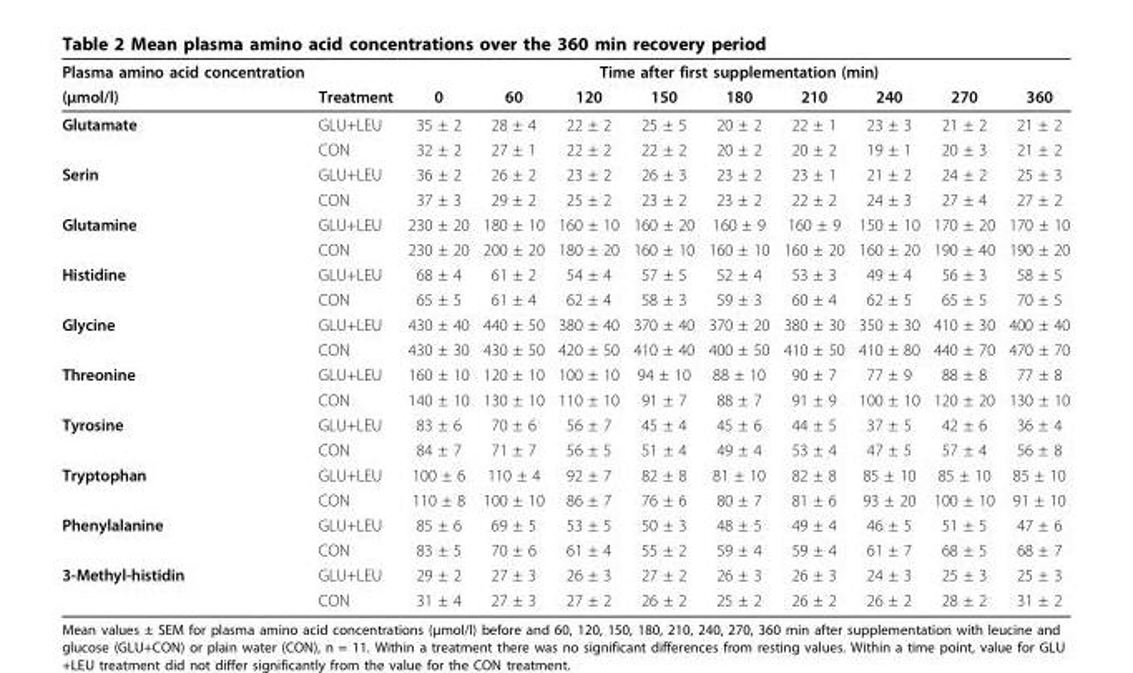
<table><thead><tr><td rowspan="2">Plasma amino acid concentration (μmol/l)</td><td rowspan="2">Treatment</td><td colspan="9">Time after first supplementation (min)</td></tr><tr><td>0</td><td>60</td><td>120</td><td>150</td><td>180</td><td>210</td><td>240</td><td>270</td><td>360</td></tr></thead><tbody><tr><td rowspan="2">Glutamate</td><td>GLU+LEU</td><td>35 ± 2</td><td>28 ± 4</td><td>22 ± 2</td><td>25 ± 5</td><td>20 ± 2</td><td>22 ± 1</td><td>23 ± 3</td><td>21 ± 2</td><td>21 ± 2</td></tr><tr><td>CON</td><td>32 ± 2</td><td>27 ± 1</td><td>22 ± 2</td><td>22 ± 2</td><td>20 ± 2</td><td>20 ± 2</td><td>19 ± 1</td><td>20 ± 3</td><td>21 ± 2</td></tr><tr><td rowspan="2">Serin</td><td>GLU+LEU</td><td>36 ± 2</td><td>26 ± 2</td><td>23 ± 2</td><td>26 ± 3</td><td>23 ± 2</td><td>23 ± 1</td><td>21 ± 2</td><td>24 ± 2</td><td>25 ± 3</td></tr><tr><td>CON</td><td>37 ± 3</td><td>29 ± 2</td><td>25 ± 2</td><td>23 ± 2</td><td>23 ± 2</td><td>22 ± 2</td><td>24 ± 3</td><td>27 ± 4</td><td>27 ± 2</td></tr><tr><td rowspan="2">Glutamine</td><td>GLU+LEU</td><td>230 ± 20</td><td>180 ± 10</td><td>160 ± 10</td><td>160 ± 20</td><td>160 ± 9</td><td>160 ± 9</td><td>150 ± 10</td><td>170 ± 20</td><td>170 ± 10</td></tr><tr><td>CON</td><td>230 ± 20</td><td>200 ± 20</td><td>180 ± 20</td><td>160 ± 10</td><td>160 ± 10</td><td>160 ± 20</td><td>160 ± 20</td><td>190 ± 40</td><td>190 ± 20</td></tr><tr><td rowspan="2">Histidine</td><td>GLU+LEU</td><td>68 ± 4</td><td>61 ± 2</td><td>54 ± 4</td><td>57 ± 5</td><td>52 ± 4</td><td>53 ± 3</td><td>49 ± 4</td><td>56 ± 3</td><td>58 ± 5</td></tr><tr><td>CON</td><td>65 ± 5</td><td>61 ± 4</td><td>62 ± 4</td><td>58 ± 3</td><td>59 ± 3</td><td>60 ± 4</td><td>62 ± 5</td><td>65 ± 5</td><td>70 ± 5</td></tr><tr><td rowspan="2">Glycine</td><td>GLU+LEU</td><td>430 ± 40</td><td>440 ± 50</td><td>380 ± 40</td><td>370 ± 40</td><td>370 ± 20</td><td>380 ± 30</td><td>350 ± 30</td><td>410 ± 30</td><td>400 ± 40</td></tr><tr><td>CON</td><td>430 ± 30</td><td>430 ± 50</td><td>420 ± 50</td><td>410 ± 40</td><td>400 ± 50</td><td>410 ± 50</td><td>410 ± 80</td><td>440 ± 70</td><td>470 ± 70</td></tr><tr><td rowspan="2">Threonine</td><td>GLU+LEU</td><td>160 ± 10</td><td>120 ± 10</td><td>100 ± 10</td><td>94 ± 10</td><td>88 ± 10</td><td>90 ± 7</td><td>77 ± 9</td><td>88 ± 8</td><td>77 ± 8</td></tr><tr><td>CON</td><td>140 ± 10</td><td>130 ± 10</td><td>110 ± 10</td><td>91 ± 7</td><td>88 ± 7</td><td>91 ± 9</td><td>100 ± 10</td><td>120 ± 20</td><td>130 ± 10</td></tr><tr><td rowspan="2">Tyrosine</td><td>GLU+LEU</td><td>83 ± 6</td><td>70 ± 6</td><td>56 ± 7</td><td>45 ± 4</td><td>45 ± 6</td><td>44 ± 5</td><td>37 ± 5</td><td>42 ± 6</td><td>36 ± 4</td></tr><tr><td>CON</td><td>84 ± 7</td><td>71 ± 7</td><td>56 ± 5</td><td>51 ± 4</td><td>49 ± 4</td><td>53 ± 4</td><td>47 ± 5</td><td>57 ± 4</td><td>56 ± 8</td></tr><tr><td rowspan="2">Tryptophan</td><td>GLU+LEU</td><td>100 ± 6</td><td>110 ± 4</td><td>92 ± 7</td><td>82 ± 8</td><td>81 ± 10</td><td>82 ± 8</td><td>85 ± 10</td><td>85 ± 10</td><td>85 ± 10</td></tr><tr><td>CON</td><td>110 ± 8</td><td>100 ± 10</td><td>86 ± 7</td><td>76 ± 6</td><td>80 ± 7</td><td>81 ± 6</td><td>93 ± 20</td><td>100 ± 10</td><td>91 ± 10</td></tr><tr><td rowspan="2">Phenylalanine</td><td>GLU+LEU</td><td>85 ± 6</td><td>69 ± 5</td><td>53 ± 5</td><td>50 ± 3</td><td>48 ± 5</td><td>49 ± 4</td><td>46 ± 5</td><td>51 ± 5</td><td>47 ± 6</td></tr><tr><td>CON</td><td>83 ± 5</td><td>70 ± 6</td><td>61 ± 4</td><td>55 ± 2</td><td>59 ± 4</td><td>59 ± 4</td><td>61 ± 7</td><td>68 ± 5</td><td>68 ± 7</td></tr><tr><td rowspan="2">3-Methyl-histidin</td><td>GLU+LEU</td><td>29 ± 2</td><td>27 ± 3</td><td>26 ± 3</td><td>27 ± 2</td><td>26 ± 3</td><td>26 ± 3</td><td>24 ± 3</td><td>25 ± 3</td><td>25 ± 3</td></tr><tr><td>CON</td><td>31 ± 4</td><td>27 ± 3</td><td>27 ± 2</td><td>26 ± 2</td><td>25 ± 2</td><td>26 ± 2</td><td>26 ± 2</td><td>28 ± 2</td><td>31 ± 2</td></tr></tbody></table>